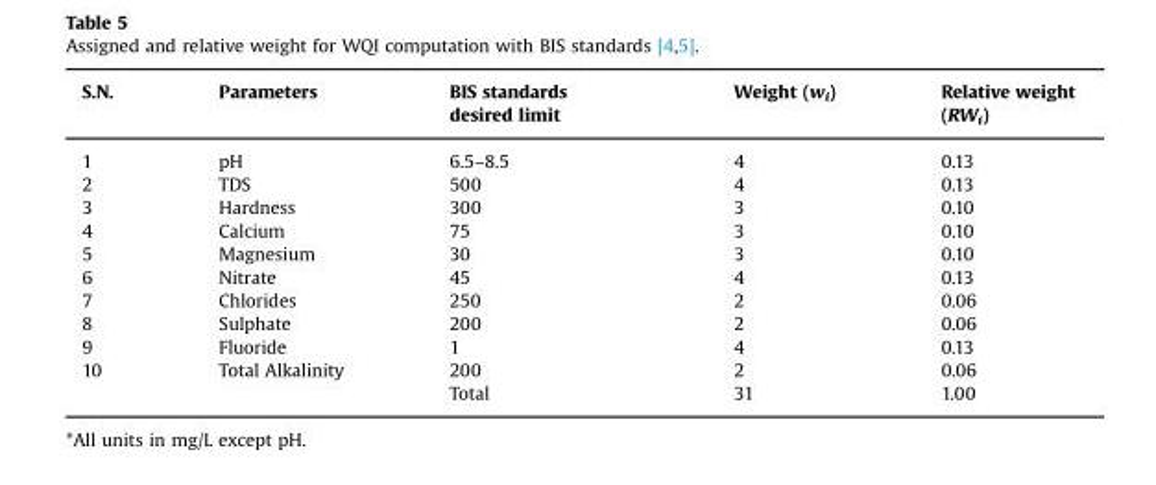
<table><thead><tr><td>S.N.</td><td>Parameters</td><td>BIS standards desired limit</td><td>Weight (w<sub>i</sub>)</td><td>Relative weight (RW<sub>i</sub>)</td></tr></thead><tbody><tr><td>1</td><td>pH</td><td>6.5–8.5</td><td>4</td><td>0.13</td></tr><tr><td>2</td><td>TDS</td><td>500</td><td>4</td><td>0.13</td></tr><tr><td>3</td><td>Hardness</td><td>300</td><td>3</td><td>0.10</td></tr><tr><td>4</td><td>Calcium</td><td>75</td><td>3</td><td>0.10</td></tr><tr><td>5</td><td>Magnesium</td><td>30</td><td>3</td><td>0.10</td></tr><tr><td>6</td><td>Nitrate</td><td>45</td><td>4</td><td>0.13</td></tr><tr><td>7</td><td>Chlorides</td><td>250</td><td>2</td><td>0.06</td></tr><tr><td>8</td><td>Sulphate</td><td>200</td><td>2</td><td>0.06</td></tr><tr><td>9</td><td>Fluoride</td><td>1</td><td>4</td><td>0.13</td></tr><tr><td rowspan="2">10</td><td>Total Alkalinity</td><td>200</td><td>2</td><td>0.06</td></tr><tr><td></td><td>Total</td><td>31</td><td>1.00</td></tr></tbody></table>